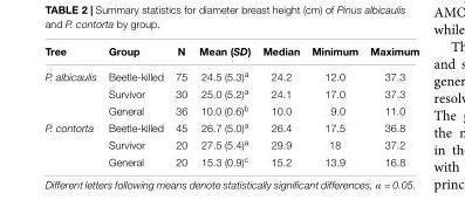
<table><thead><tr><td>Tree</td><td>Group</td><td>N</td><td>Mean (SD)</td><td>Median</td><td>Minimum</td><td>Maximum</td></tr></thead><tbody><tr><td rowspan="3">P. albicaulis</td><td>Beetle-killed</td><td>75</td><td>24.5 (5.3)<sup>a</sup></td><td>24.2</td><td>12.0</td><td>37.3</td></tr><tr><td>Survivor</td><td>30</td><td>25.0 (5.2)<sup>a</sup></td><td>24.1</td><td>17.0</td><td>37.3</td></tr><tr><td>General</td><td>36</td><td>10.0 (0.6)<sup>b</sup></td><td>10.0</td><td>9.0</td><td>11.0</td></tr><tr><td rowspan="3">P. contorta</td><td>Beetle-killed</td><td>45</td><td>26.7 (5.0)<sup>a</sup></td><td>26.4</td><td>17.5</td><td>36.8</td></tr><tr><td>Survivor</td><td>20</td><td>27.5 (5.4)<sup>a</sup></td><td>29.9</td><td>18</td><td>37.2</td></tr><tr><td>General</td><td>20</td><td>15.3 (0.9)<sup>c</sup></td><td>15.2</td><td>13.9</td><td>16.8</td></tr></tbody></table>